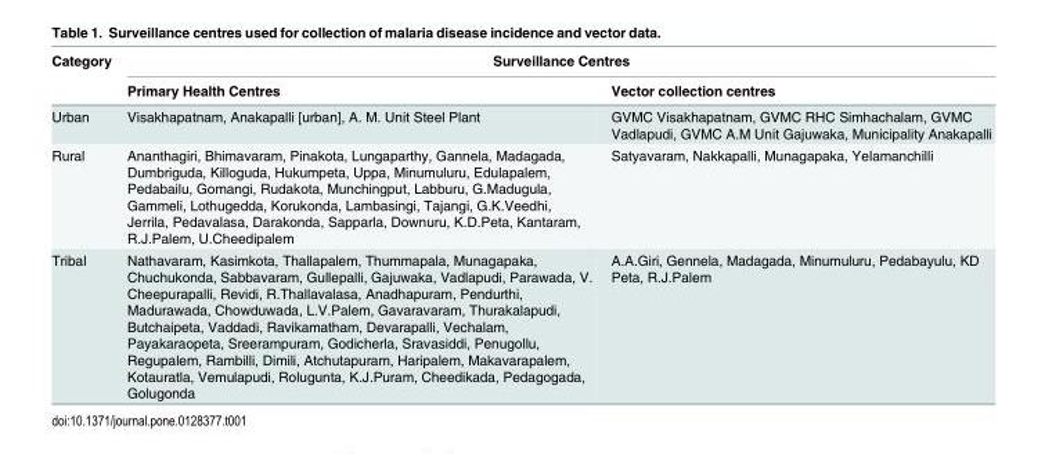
<table><thead><tr><td rowspan="2">Category</td><td colspan="2">Surveillance Centres</td></tr><tr><td>Primary Health Centres</td><td>Vector collection centres</td></tr></thead><tbody><tr><td>Urban</td><td>Visakhapatnam, Anakapalli [urban], A. M. Unit Steel Plant</td><td>GVMC Visakhapatnam, GVMC RHC Simhachalam, GVMC Vadlapudi, GVMC A.M Unit Gajuwaka, Municipality Anakapalli</td></tr><tr><td>Rural</td><td>Ananthagiri, Bhimavaram, Pinakota, Lungaparthy, Gannela, Madagada, Dumbriguda, Killoguda, Hukumpeta, Uppa, Minumuluru, Edulapalem, Pedabailu, Gomangi, Rudakota, Munchingput, Labburu, G.Madugula, Gammeli, Lothugedda, Korukonda, Lambasingi, Tajangi, G.K.Veedhi, Jerrila, Pedavalasa, Darakonda, Sapparla, Downuru, K.D.Peta, Kantaram, R.J.Palem, U.Cheedipalem</td><td>Satyavaram, Nakkapalli, Munagapaka, Yelamanchilli</td></tr><tr><td>Tribal</td><td>Nathavaram, Kasimkota, Thallapalem, Thummapala, Munagapaka, Chuchukonda, Sabbavaram, Gullepalli, Gajuwaka, Vadlapudi, Parawada, V. Cheepurapalli, Revidi, R.Thallavalasa, Anadhapuram, Pendurthi, Madurawada, Chowduwada, L.V.Palem, Gavaravaram, Thurakalapudi, Butchaipeta, Vaddadi, Ravikamatham, Devarapalli, Vechalam, Payakaraopeta, Sreerampuram, Godicherla, Sravasiddi, Penugollu, Regupalem, Rambilli, Dimili, Atchutapuram, Haripalem, Makavarapalem, Kotauratla, Vemulapudi, Rolugunta, K.J.Puram, Cheedikada, Pedagogada, Golugonda</td><td>A.A.Giri, Gennela, Madagada, Minumuluru, Pedabayulu, KD Peta, R.J.Palem</td></tr></tbody></table>